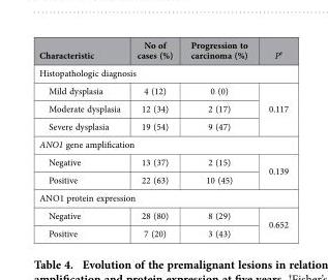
<table><thead><tr><td>Characteristic</td><td>No of cases (%)</td><td>Progression to carcinoma (%)</td><td>P†</td></tr></thead><tbody><tr><td colspan="4">Histopathologic diagnosis</td></tr><tr><td>Mild dysplasia</td><td>4 (12)</td><td>0 (0)</td><td rowspan="2">0.117</td></tr><tr><td>Moderate dysplasia</td><td>12 (34)</td><td>2 (17)</td></tr><tr><td>Severe dysplasia</td><td>19 (54)</td><td>9 (47)</td><td></td></tr><tr><td colspan="4">ANO1 gene amplification</td></tr><tr><td>Negative</td><td>13 (37)</td><td>2 (15)</td><td rowspan="2">0.139</td></tr><tr><td>Positive</td><td>22 (63)</td><td>10 (45)</td></tr><tr><td colspan="4">ANO1 protein expression</td></tr><tr><td>Negative</td><td>28 (80)</td><td>8 (29)</td><td rowspan="2">0.652</td></tr><tr><td>Positive</td><td>7 (20)</td><td>3 (43)</td></tr></tbody></table>